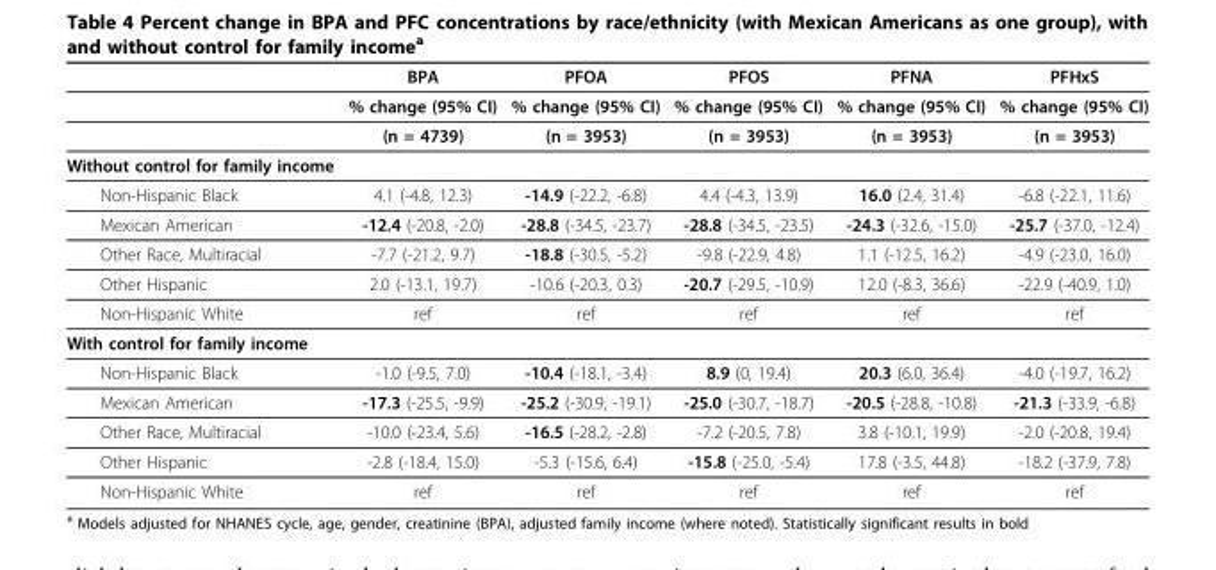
<table><thead><tr><td></td><td>BPA</td><td>PFOA</td><td>PFOS</td><td>PFNA</td><td>PFHxS</td></tr></thead><tbody><tr><td></td><td>% change (95% CI)</td><td>% change (95% CI)</td><td>% change (95% CI)</td><td>% change (95% CI)</td><td>% change (95% CI)</td></tr><tr><td></td><td>(n = 4739)</td><td>(n = 3953)</td><td>(n = 3953)</td><td>(n = 3953)</td><td>(n = 3953)</td></tr><tr><td colspan="6">Without control for family income</td></tr><tr><td>Non-Hispanic Black</td><td>4.1 (-4.8, 12.3)</td><td>-14.9 (-22.2, -6.8)</td><td>4.4 (-4.3, 13.9)</td><td>16.0 (2.4, 31.4)</td><td>-6.8 (-22.1, 11.6)</td></tr><tr><td>Mexican American</td><td>-12.4 (-20.8, -2.0)</td><td>-28.8 (-34.5, -23.7)</td><td>-28.8 (-34.5, -23.5)</td><td>-24.3 (-32.6, -15.0)</td><td>-25.7 (-37.0, -12.4)</td></tr><tr><td>Other Race, Multiracial</td><td>-7.7 (-21.2, 9.7)</td><td>-18.8 (-30.5, -5.2)</td><td>-9.8 (-22.9, 4.8)</td><td>1.1 (-12.5, 16.2)</td><td>-4.9 (-23.0, 16.0)</td></tr><tr><td>Other Hispanic</td><td>2.0 (-13.1, 19.7)</td><td>-10.6 (-20.3, 0.3)</td><td>-20.7 (-29.5, -10.9)</td><td>12.0 (-8.3, 36.6)</td><td>-22.9 (-40.9, 1.0)</td></tr><tr><td>Non-Hispanic White</td><td>ref</td><td>ref</td><td>ref</td><td>ref</td><td>ref</td></tr><tr><td colspan="6">With control for family income</td></tr><tr><td>Non-Hispanic Black</td><td>-1.0 (-9.5, 7.0)</td><td>-10.4 (-18.1, -3.4)</td><td>8.9 (0, 19.4)</td><td>20.3 (6.0, 36.4)</td><td>-4.0 (-19.7, 16.2)</td></tr><tr><td>Mexican American</td><td>-17.3 (-25.5, -9.9)</td><td>-25.2 (-30.9, -19.1)</td><td>-25.0 (-30.7, -18.7)</td><td>-20.5 (-28.8, -10.8)</td><td>-21.3 (-33.9, -6.8)</td></tr><tr><td>Other Race, Multiracial</td><td>-10.0 (-23.4, 5.6)</td><td>-16.5 (-28.2, -2.8)</td><td>-7.2 (-20.5, 7.8)</td><td>3.8 (-10.1, 19.9)</td><td>-2.0 (-20.8, 19.4)</td></tr><tr><td>Other Hispanic</td><td>-2.8 (-18.4, 15.0)</td><td>-5.3 (-15.6, 6.4)</td><td>-15.8 (-25.0, -5.4)</td><td>17.8 (-3.5, 44.8)</td><td>-18.2 (-37.9, 7.8)</td></tr><tr><td>Non-Hispanic White</td><td>ref</td><td>ref</td><td>ref</td><td>ref</td><td>ref</td></tr></tbody></table>